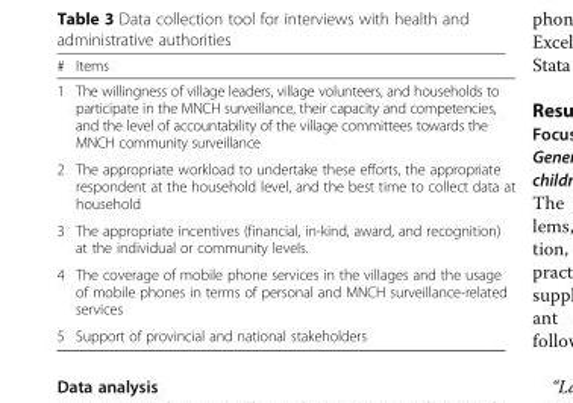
<table><thead><tr><td>#</td><td>Items</td></tr></thead><tbody><tr><td>1</td><td>The willingness of village leaders, village volunteers, and households to participate in the MNCH surveillance, their capacity and competencies, and the level of accountability of the village committees towards the MNCH community surveillance</td></tr><tr><td>2</td><td>The appropriate workload to undertake these efforts, the appropriate respondent at the household level, and the best time to collect data at household</td></tr><tr><td>3</td><td>The appropriate incentives (financial, in-kind, award, and recognition) at the individual or community levels.</td></tr><tr><td>4</td><td>The coverage of mobile phone services in the villages and the usage of mobile phones in terms of personal and MNCH surveillance-related services</td></tr><tr><td>5</td><td>Support of provincial and national stakeholders</td></tr></tbody></table>